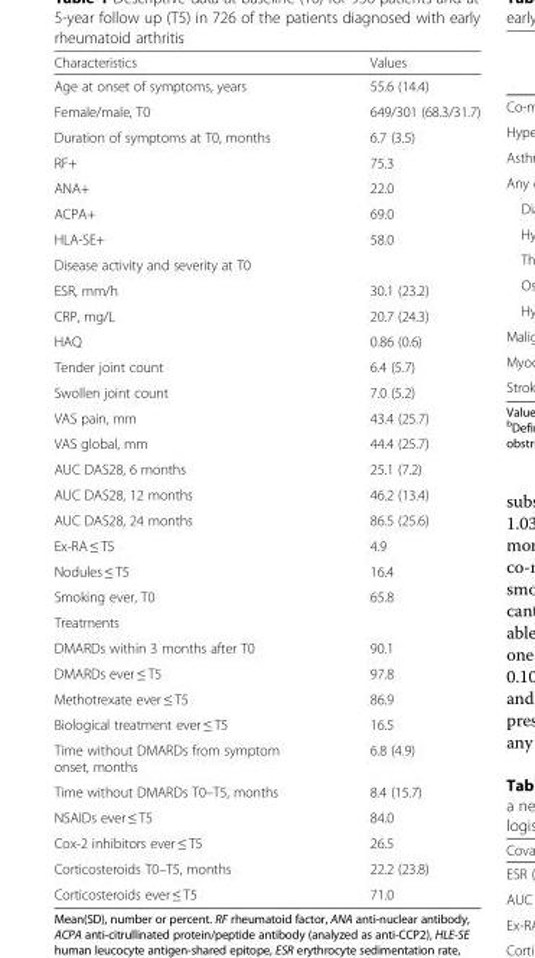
<table><thead><tr><td>Characteristics</td><td>Values</td></tr></thead><tbody><tr><td>Age at onset of symptoms, years</td><td>55.6 (14.4)</td></tr><tr><td>Female/male, T0</td><td>649/301 (68.3/31.7)</td></tr><tr><td>Duration of symptoms at T0, months</td><td>6.7 (3.5)</td></tr><tr><td>RF+</td><td>75.3</td></tr><tr><td>ANA+</td><td>22.0</td></tr><tr><td>ACPA+</td><td>69.0</td></tr><tr><td>HLA-SE+</td><td>58.0</td></tr><tr><td colspan="2">Disease activity and severity at T0</td></tr><tr><td>ESR, mm/h</td><td>30.1 (23.2)</td></tr><tr><td>CRP, mg/L</td><td>20.7 (24.3)</td></tr><tr><td>HAQ</td><td>0.86 (0.6)</td></tr><tr><td>Tender joint count</td><td>6.4 (5.7)</td></tr><tr><td>Swollen joint count</td><td>7.0 (5.2)</td></tr><tr><td>VAS pain, mm</td><td>43.4 (25.7)</td></tr><tr><td>VAS global, mm</td><td>44.4 (25.7)</td></tr><tr><td>AUC DAS28, 6 months</td><td>25.1 (7.2)</td></tr><tr><td>AUC DAS28, 12 months</td><td>46.2 (13.4)</td></tr><tr><td>AUC DAS28, 24 months</td><td>86.5 (25.6)</td></tr><tr><td>Ex-RA ≤ T5</td><td>4.9</td></tr><tr><td>Nodules ≤ T5</td><td>16.4</td></tr><tr><td>Smoking ever, T0</td><td>65.8</td></tr><tr><td colspan="2">Treatments</td></tr><tr><td>DMARDs within 3 months after T0</td><td>90.1</td></tr><tr><td>DMARDs ever ≤ T5</td><td>97.8</td></tr><tr><td>Methotrexate ever ≤ T5</td><td>86.9</td></tr><tr><td>Biological treatment ever ≤ T5</td><td>16.5</td></tr><tr><td>Time without DMARDs from symptom onset, months</td><td>6.8 (4.9)</td></tr><tr><td>Time without DMARDs T0–T5, months</td><td>8.4 (15.7)</td></tr><tr><td>NSAIDs ever ≤ T5</td><td>84.0</td></tr><tr><td>Cox-2 inhibitors ever ≤ T5</td><td>26.5</td></tr><tr><td>Corticosteroids T0–T5, months</td><td>22.2 (23.8)</td></tr><tr><td>Corticosteroids ever ≤ T5</td><td>71.0</td></tr></tbody></table>